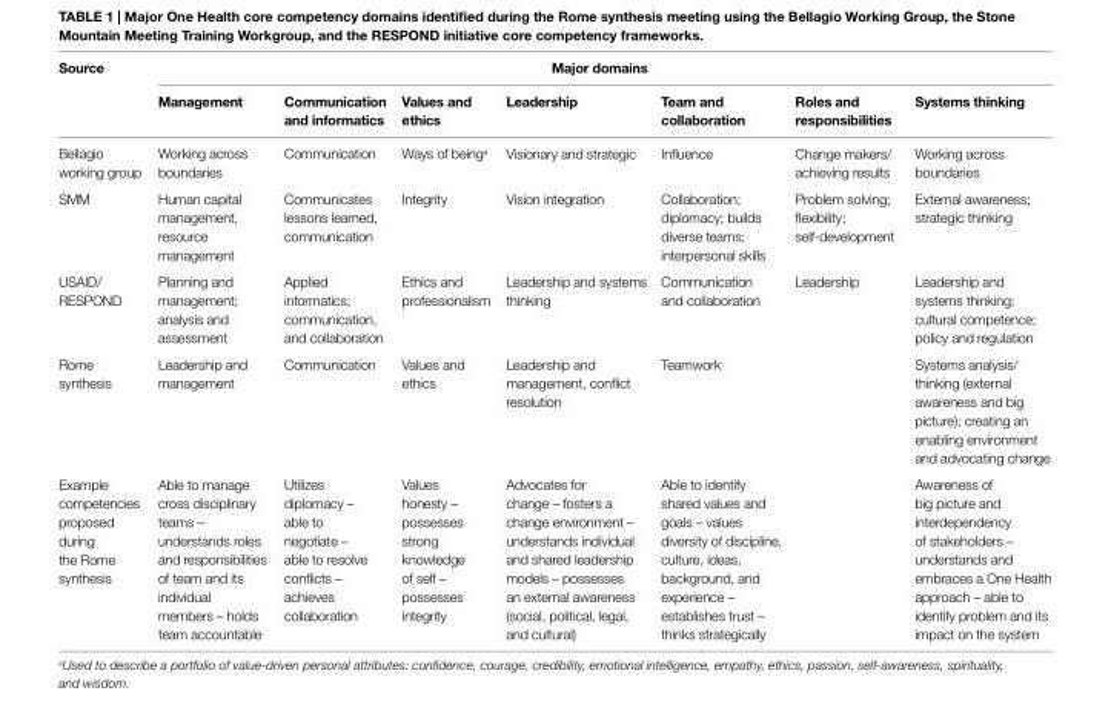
<table><thead><tr><td rowspan="2">source</td><td colspan="7">major domains</td></tr><tr><td>management</td><td>Communication and informatics</td><td>Values and ethics</td><td>leadership</td><td>team and collaboration</td><td>roles and responsibilities</td><td>systems thinking</td></tr></thead><tbody><tr><td>Bellagio working group</td><td>Working across boundaries</td><td>Communication</td><td>Ways of being<sup>a</sup></td><td>Visionary and strategic</td><td>Influence</td><td>Change makers/ achieving results</td><td>Working across boundaries</td></tr><tr><td>SMM</td><td>Human capital management, resource management</td><td>Communicates lessons learned, communication</td><td>Integrity</td><td>Vision integration</td><td>Collaboration; diplomacy; builds diverse teams; interpersonal skills</td><td>Problem solving; flexibility; self-development</td><td>External awareness; strategic thinking</td></tr><tr><td>USAID/ RESPOND</td><td>Planning and management; analysis and assessment</td><td>Applied informatics; communication, and collaboration</td><td>Ethics and professionalism</td><td>Leadership and systems thinking</td><td>Communication and collaboration</td><td>Leadership</td><td>Leadership and systems thinking; cultural competence; policy and regulation</td></tr><tr><td>Rome synthesis</td><td>Leadership and management</td><td>Communication</td><td>Values and ethics</td><td>Leadership and management, conflict resolution</td><td>Teamwork</td><td></td><td>Systems analysis/ thinking (external awareness and big picture); creating an enabling environment and advocating change</td></tr><tr><td>Example competencies proposed during the Rome synthesis</td><td>Able to manage cross disciplinary teams – understands roles and responsibilities of team and its individual members – holds team accountable</td><td>Utilizes diplomacy – able to negotiate – able to resolve conflicts – achieves collaboration</td><td>Values honesty – possesses strong knowledge of self – possesses integrity</td><td>Advocates for change – fosters a change environment – understands individual and shared leadership models – possesses an external awareness (social, political, legal, and cultural)</td><td>Able to identify shared values and goals – values diversity of discipline, culture, ideas, background, and experience – establishes trust – thinks strategically</td><td></td><td>Awareness of big picture and interdependency of stakeholders – understands and embraces a One Health approach – able to identify problem and its impact on the system</td></tr></tbody></table>